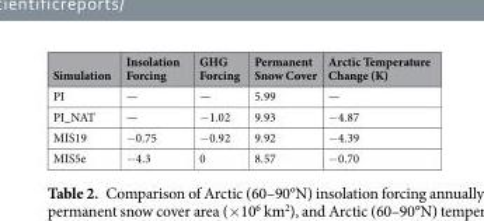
<table><thead><tr><td>Simulation</td><td>Insolation Forcing</td><td>GHG Forcing</td><td>Permanent Snow Cover</td><td>Arctic Temperature Change (K)</td></tr></thead><tbody><tr><td>PI</td><td>—</td><td>—</td><td>5.99</td><td>—</td></tr><tr><td>PI_NAT</td><td>—</td><td>−1.02</td><td>9.93</td><td>−4.87</td></tr><tr><td>MIS19</td><td>−0.75</td><td>−0.92</td><td>9.92</td><td>−4.39</td></tr><tr><td>MIS5e</td><td>−4.3</td><td>0</td><td>8.57</td><td>−0.70</td></tr></tbody></table>